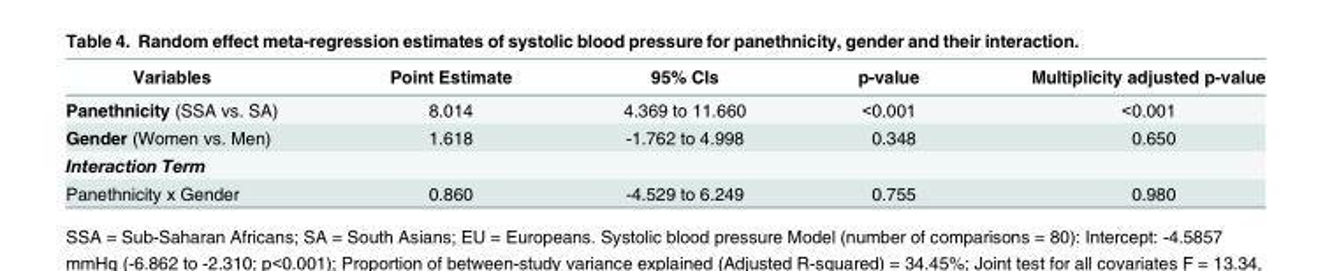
<table><thead><tr><td>Variables</td><td>Point Estimate</td><td>95% CIs</td><td>p-value</td><td>Multiplicity adjusted p-value</td></tr></thead><tbody><tr><td>Panethnicity (SSA vs. SA)</td><td>8.014</td><td>4.369 to 11.660</td><td>&lt;0.001</td><td>&lt;0.001</td></tr><tr><td>Gender (Women vs. Men)</td><td>1.618</td><td>-1.762 to 4.998</td><td>0.348</td><td>0.650</td></tr><tr><td colspan="5">Interaction Term</td></tr><tr><td>Panethnicity x Gender</td><td>0.860</td><td>-4.529 to 6.249</td><td>0.755</td><td>0.980</td></tr></tbody></table>